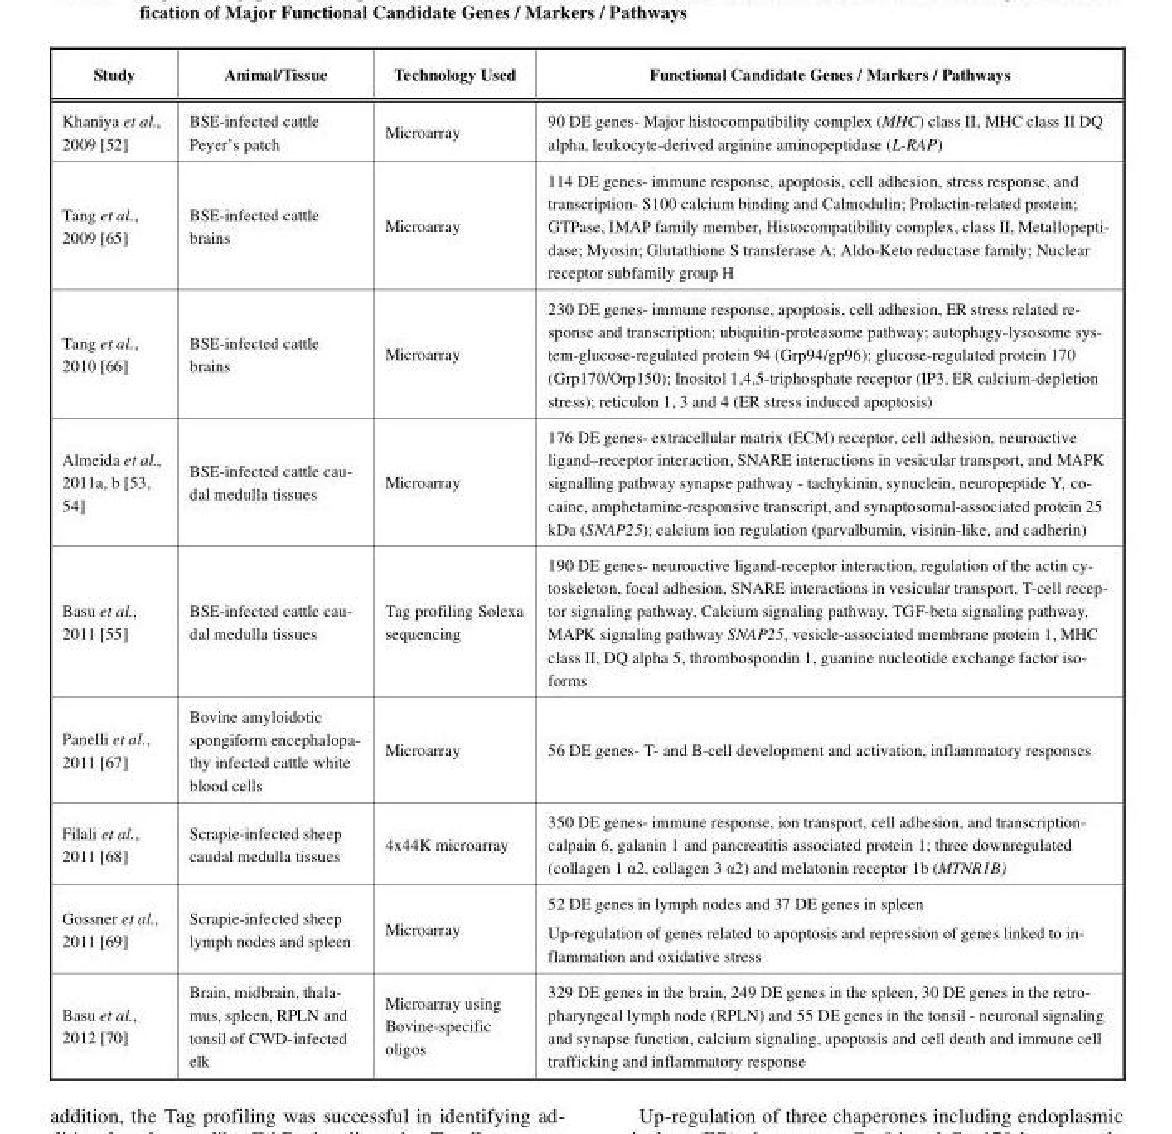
<table><thead><tr><td>Study</td><td>Animal/Tissue</td><td>Technology Used</td><td>Functional Candidate Genes / Markers / Pathways</td></tr></thead><tbody><tr><td>Khaniya et al., 2009 [52]</td><td>BSE-infected cattle Peyer’s patch</td><td>Microarray</td><td>90 DE genes- Major histocompatibility complex (MHC) class II, MHC class II DQ alpha, leukocyte-derived arginine aminopeptidase (L-RAP)</td></tr><tr><td>Tang et al., 2009 [65]</td><td>BSE-infected cattle brains</td><td>Microarray</td><td>114 DE genes- immune response, apoptosis, cell adhesion, stress response, and transcription- S100 calcium binding and Calmodulin; Prolactin-related protein; GTPase, IMAP family member, Histocompatibility complex, class II, Metallopepti- dase; Myosin; Glutathione S transferase A; Aldo-Keto reductase family; Nuclear receptor subfamily group H</td></tr><tr><td>Tang et al., 2010 [66]</td><td>BSE-infected cattle brains</td><td>Microarray</td><td>230 DE genes- immune response, apoptosis, cell adhesion, ER stress related re- sponse and transcription; ubiquitin-proteasome pathway; autophagy-lysosome sys- tem-glucose-regulated protein 94 (Grp94/gp96); glucose-regulated protein 170 (Grp170/Orp150); Inositol 1,4,5-triphosphate receptor (IP3, ER calcium-depletion stress); reticulon 1, 3 and 4 (ER stress induced apoptosis)</td></tr><tr><td>Almeida et al., 2011a, b [53, 54]</td><td>BSE-infected cattle cau- dal medulla tissues</td><td>Microarray</td><td>176 DE genes- extracellular matrix (ECM) receptor, cell adhesion, neuroactive ligand–receptor interaction, SNARE interactions in vesicular transport, and MAPK signalling pathway synapse pathway - tachykinin, synuclein, neuropeptide Y, co- caine, amphetamine-responsive transcript, and synaptosomal-associated protein 25 kDa (SNAP25); calcium ion regulation (parvalbumin, visinin-like, and cadherin)</td></tr><tr><td>Basu et al., 2011 [55]</td><td>BSE-infected cattle cau- dal medulla tissues</td><td>Tag profiling Solexa sequencing</td><td>190 DE genes- neuroactive ligand-receptor interaction, regulation of the actin cy- toskeleton, focal adhesion, SNARE interactions in vesicular transport, T-cell recep- tor signaling pathway, Calcium signaling pathway, TGF-beta signaling pathway, MAPK signaling pathway SNAP25, vesicle-associated membrane protein 1, MHC class II, DQ alpha 5, thrombospondin 1, guanine nucleotide exchange factor iso- forms</td></tr><tr><td>Panelli et al., 2011 [67]</td><td>Bovine amyloidotic spongiform encephalopa- thy infected cattle white blood cells</td><td>Microarray</td><td>56 DE genes- T- and B-cell development and activation, inflammatory responses</td></tr><tr><td>Filali et al., 2011 [68]</td><td>Scrapie-infected sheep caudal medulla tissues</td><td>4x44K microarray</td><td>350 DE genes- immune response, ion transport, cell adhesion, and transcription- calpain 6, galanin 1 and pancreatitis associated protein 1; three downregulated (collagen 1 α2, collagen 3 α2) and melatonin receptor 1b (MTNR1B)</td></tr><tr><td>Gossner et al., 2011 [69]</td><td>Scrapie-infected sheep lymph nodes and spleen</td><td>Microarray</td><td>52 DE genes in lymph nodes and 37 DE genes in spleen Up-regulation of genes related to apoptosis and repression of genes linked to in- flammation and oxidative stress</td></tr><tr><td>Basu et al., 2012 [70]</td><td>Brain, midbrain, thala- mus, spleen, RPLN and tonsil of CWD-infected elk</td><td>Microarray using Bovine-specific oligos</td><td>329 DE genes in the brain, 249 DE genes in the spleen, 30 DE genes in the retro- pharyngeal lymph node (RPLN) and 55 DE genes in the tonsil - neuronal signaling and synapse function, calcium signaling, apoptosis and cell death and immune cell trafficking and inflammatory response</td></tr></tbody></table>